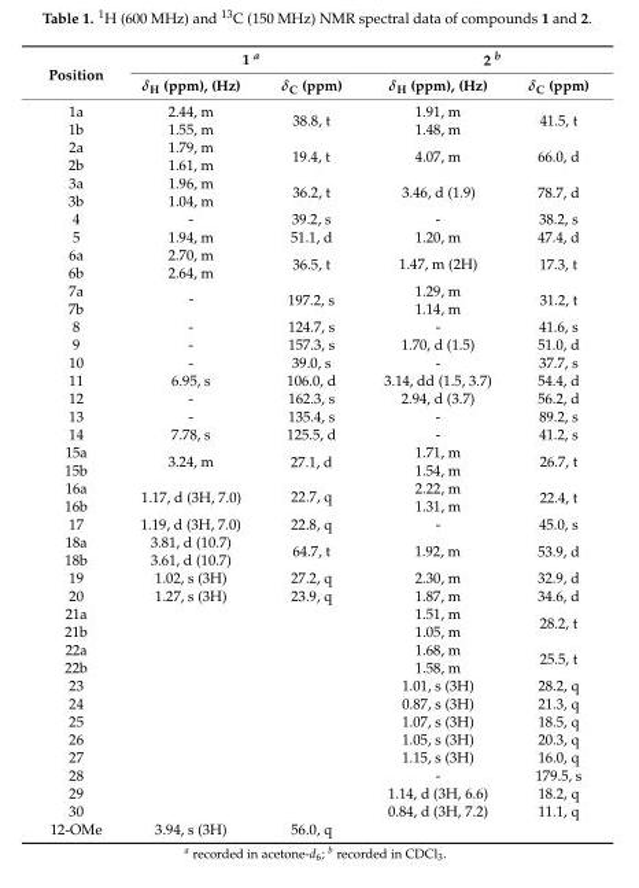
<table><thead><tr><td rowspan="2">Position</td><td colspan="2">1 <sup>a</sup></td><td colspan="2">2 <sup>b</sup></td></tr><tr><td>δ<sub>H</sub> (ppm), (Hz)</td><td>δ<sub>C</sub> (ppm)</td><td>δ<sub>H</sub> (ppm), (Hz)</td><td>δ<sub>C</sub> (ppm)</td></tr></thead><tbody><tr><td>1a</td><td>2.44, m</td><td rowspan="2">38.8, t</td><td>1.91, m</td><td rowspan="2">41.5, t</td></tr><tr><td>1b</td><td>1.55, m</td><td>1.48, m</td></tr><tr><td>2a</td><td>1.79, m</td><td rowspan="2">19.4, t</td><td rowspan="2">4.07, m</td><td rowspan="2">66.0, d</td></tr><tr><td>2b</td><td>1.61, m</td></tr><tr><td>3a</td><td>1.96, m</td><td rowspan="2">36.2, t</td><td rowspan="2">3.46, d (1.9)</td><td rowspan="2">78.7, d</td></tr><tr><td>3b</td><td>1.04, m</td></tr><tr><td>4</td><td>-</td><td>39.2, s</td><td>-</td><td>38.2, s</td></tr><tr><td>5</td><td>1.94, m</td><td>51.1, d</td><td>1.20, m</td><td>47.4, d</td></tr><tr><td>6a</td><td>2.70, m</td><td rowspan="2">36.5, t</td><td rowspan="2">1.47, m (2H)</td><td rowspan="2">17.3, t</td></tr><tr><td>6b</td><td>2.64, m</td></tr><tr><td>7a</td><td rowspan="2">-</td><td rowspan="2">197.2, s</td><td>1.29, m</td><td rowspan="2">31.2, t</td></tr><tr><td>7b</td><td>1.14, m</td></tr><tr><td>8</td><td>-</td><td>124.7, s</td><td>-</td><td>41.6, s</td></tr><tr><td>9</td><td>-</td><td>157.3, s</td><td>1.70, d (1.5)</td><td>51.0, d</td></tr><tr><td>10</td><td>-</td><td>39.0, s</td><td>-</td><td>37.7, s</td></tr><tr><td>11</td><td>6.95, s</td><td>106.0, d</td><td>3.14, dd (1.5, 3.7)</td><td>54.4, d</td></tr><tr><td>12</td><td>-</td><td>162.3, s</td><td>2.94, d (3.7)</td><td>56.2, d</td></tr><tr><td>13</td><td>-</td><td>135.4, s</td><td>-</td><td>89.2, s</td></tr><tr><td>14</td><td>7.78, s</td><td>125.5, d</td><td>-</td><td>41.2, s</td></tr><tr><td>15a</td><td rowspan="2">3.24, m</td><td rowspan="2">27.1, d</td><td>1.71, m</td><td rowspan="2">26.7, t</td></tr><tr><td>15b</td><td>1.54, m</td></tr><tr><td>16a</td><td rowspan="2">1.17, d (3H, 7.0)</td><td rowspan="2">22.7, q</td><td>2.22, m</td><td rowspan="2">22.4, t</td></tr><tr><td>16b</td><td>1.31, m</td></tr><tr><td>17</td><td>1.19, d (3H, 7.0)</td><td>22.8, q</td><td>-</td><td>45.0, s</td></tr><tr><td>18a</td><td>3.81, d (10.7)</td><td rowspan="2">64.7, t</td><td rowspan="2">1.92, m</td><td rowspan="2">53.9, d</td></tr><tr><td>18b</td><td>3.61, d (10.7)</td></tr><tr><td>19</td><td>1.02, s (3H)</td><td>27.2, q</td><td>2.30, m</td><td>32.9, d</td></tr><tr><td>20</td><td>1.27, s (3H)</td><td>23.9, q</td><td>1.87, m</td><td>34.6, d</td></tr><tr><td>21a</td><td></td><td></td><td>1.51, m</td><td rowspan="2">28.2, t</td></tr><tr><td>21b</td><td></td><td></td><td>1.05, m</td></tr><tr><td>22a</td><td></td><td></td><td>1.68, m</td><td rowspan="2">25.5, t</td></tr><tr><td>22b</td><td></td><td></td><td>1.58, m</td></tr><tr><td>23</td><td></td><td></td><td>1.01, s (3H)</td><td>28.2, q</td></tr><tr><td>24</td><td></td><td></td><td>0.87, s (3H)</td><td>21.3, q</td></tr><tr><td>25</td><td></td><td></td><td>1.07, s (3H)</td><td>18.5, q</td></tr><tr><td>26</td><td></td><td></td><td>1.05, s (3H)</td><td>20.3, q</td></tr><tr><td>27</td><td></td><td></td><td>1.15, s (3H)</td><td>16.0, q</td></tr><tr><td>28</td><td></td><td></td><td>-</td><td>179.5, s</td></tr><tr><td>29</td><td></td><td></td><td>1.14, d (3H, 6.6)</td><td>18.2, q</td></tr><tr><td>30</td><td></td><td></td><td>0.84, d (3H, 7.2)</td><td>11.1, q</td></tr><tr><td>12-OMe</td><td>3.94, s (3H)</td><td>56.0, q</td><td></td><td></td></tr></tbody></table>